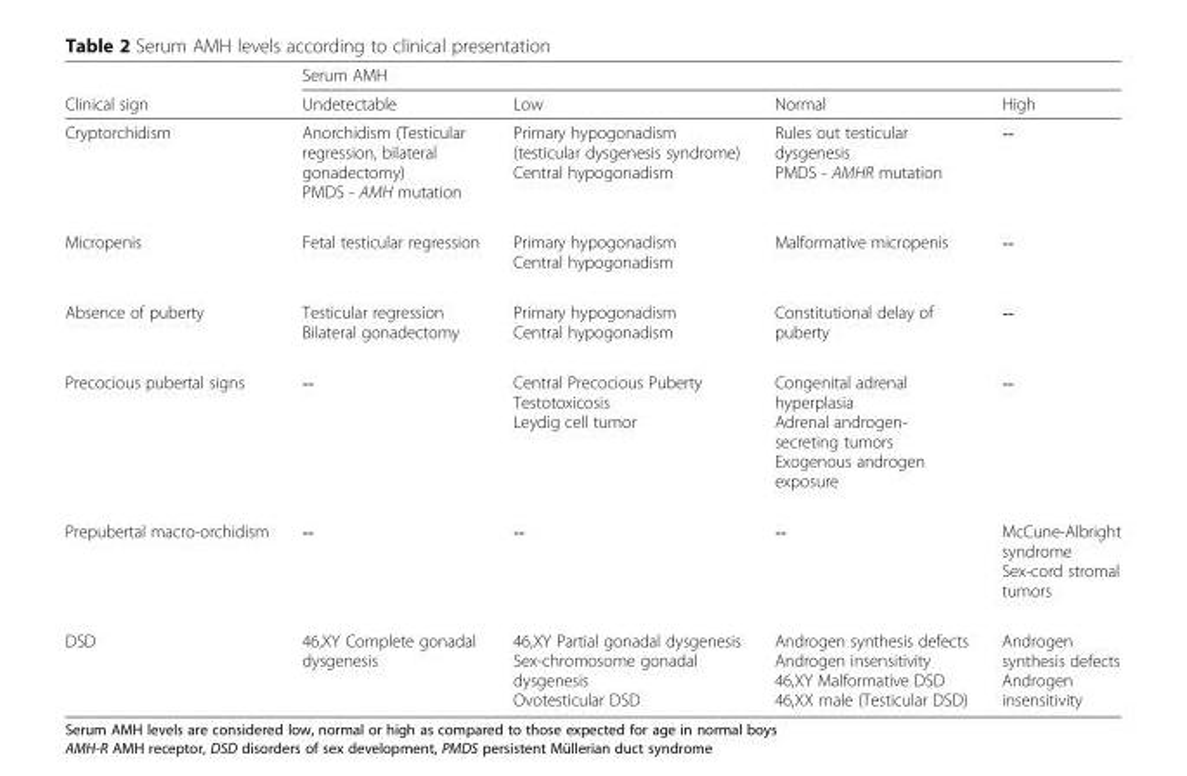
<table><thead><tr><td rowspan="2">Clinical sign</td><td colspan="4">Serum AMH</td></tr><tr><td>Undetectable</td><td>Low</td><td>Normal</td><td>High</td></tr></thead><tbody><tr><td>Cryptorchidism</td><td>Anorchidism (Testicular regression, bilateral gonadectomy) PMDS - AMH mutation</td><td>Primary hypogonadism (testicular dysgenesis syndrome) Central hypogonadism</td><td>Rules out testicular dysgenesis PMDS - AMHR mutation</td><td>--</td></tr><tr><td>Micropenis</td><td>Fetal testicular regression</td><td>Primary hypogonadism Central hypogonadism</td><td>Malformative micropenis</td><td>--</td></tr><tr><td>Absence of puberty</td><td>Testicular regression Bilateral gonadectomy</td><td>Primary hypogonadism Central hypogonadism</td><td>Constitutional delay of puberty</td><td>--</td></tr><tr><td>Precocious pubertal signs</td><td>--</td><td>Central Precocious Puberty Testotoxicosis Leydig cell tumor</td><td>Congenital adrenal hyperplasia Adrenal androgen- secreting tumors Exogenous androgen exposure</td><td>--</td></tr><tr><td>Prepubertal macro-orchidism</td><td>--</td><td>--</td><td>--</td><td>McCune-Albright syndrome Sex-cord stromal tumors</td></tr><tr><td>DSD</td><td>46,XY Complete gonadal dysgenesis</td><td>46,XY Partial gonadal dysgenesis Sex-chromosome gonadal dysgenesis Ovotesticular DSD</td><td>Androgen synthesis defects Androgen insensitivity 46,XY Malformative DSD 46,XX male (Testicular DSD)</td><td>Androgen synthesis defects Androgen insensitivity</td></tr></tbody></table>